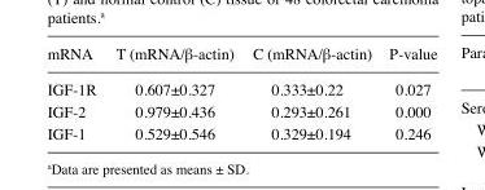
<table><thead><tr><td>mRNA</td><td>T (mRNA/β-actin)</td><td>C (mRNA/β-actin)</td><td>P-value</td></tr></thead><tbody><tr><td>IGF-1R</td><td>0.607±0.327</td><td>0.333±0.22</td><td>0.027</td></tr><tr><td>IGF-2</td><td>0.979±0.436</td><td>0.293±0.261</td><td>0.000</td></tr><tr><td>IGF-1</td><td>0.529±0.546</td><td>0.329±0.194</td><td>0.246</td></tr></tbody></table>